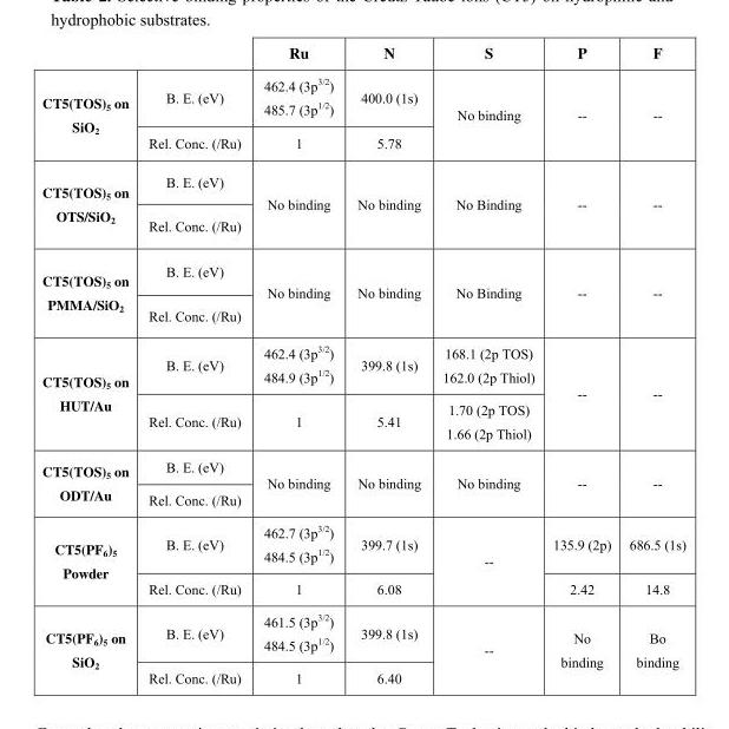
<table><thead><tr><td></td><td></td><td>Ru</td><td>N</td><td>S</td><td>P</td><td>F</td></tr></thead><tbody><tr><td rowspan="2">CT5(TOS)<sub>5</sub> on SiO<sub>2</sub></td><td>B. E. (eV)</td><td>462.4 (3p<sup>3/2</sup>) 485.7 (3p<sup>1/2</sup>)</td><td>400.0 (1s)</td><td rowspan="2">No binding</td><td rowspan="2">--</td><td rowspan="2">--</td></tr><tr><td>Rel. Conc. (/Ru)</td><td>1</td><td>5.78</td></tr><tr><td rowspan="2">CT5(TOS)<sub>5</sub> on OTS/SiO<sub>2</sub></td><td>B. E. (eV)</td><td rowspan="2">No binding</td><td rowspan="2">No binding</td><td rowspan="2">No Binding</td><td rowspan="2">--</td><td rowspan="2">--</td></tr><tr><td>Rel. Conc. (/Ru)</td></tr><tr><td rowspan="2">CT5(TOS)<sub>5</sub> on PMMA/SiO<sub>2</sub></td><td>B. E. (eV)</td><td rowspan="2">No binding</td><td rowspan="2">No binding</td><td rowspan="2">No Binding</td><td rowspan="2">--</td><td rowspan="2">--</td></tr><tr><td>Rel. Conc. (/Ru)</td></tr><tr><td rowspan="2">CT5(TOS)<sub>5</sub> on HUT/Au</td><td>B. E. (eV)</td><td>462.4 (3p<sup>3/2</sup>) 484.9 (3p<sup>1/2</sup>)</td><td>399.8 (1s)</td><td>168.1 (2p TOS) 162.0 (2p Thiol)</td><td rowspan="2">--</td><td rowspan="2">--</td></tr><tr><td>Rel. Conc. (/Ru)</td><td>1</td><td>5.41</td><td>1.70 (2p TOS) 1.66 (2p Thiol)</td></tr><tr><td rowspan="2">CT5(TOS)<sub>5</sub> on ODT/Au</td><td>B. E. (eV)</td><td rowspan="2">No binding</td><td rowspan="2">No binding</td><td rowspan="2">No binding</td><td rowspan="2">--</td><td rowspan="2">--</td></tr><tr><td>Rel. Conc. (/Ru)</td></tr><tr><td rowspan="2">CT5(PF<sub>6</sub>)<sub>5</sub> Powder</td><td>B. E. (eV)</td><td>462.7 (3p<sup>3/2</sup>) 484.5 (3p<sup>1/2</sup>)</td><td>399.7 (1s)</td><td rowspan="2">--</td><td>135.9 (2p)</td><td>686.5 (1s)</td></tr><tr><td>Rel. Conc. (/Ru)</td><td>1</td><td>6.08</td><td>2.42</td><td>14.8</td></tr><tr><td rowspan="2">CT5(PF<sub>6</sub>)<sub>5</sub> on SiO<sub>2</sub></td><td>B. E. (eV)</td><td>461.5 (3p<sup>3/2</sup>) 484.5 (3p<sup>1/2</sup>)</td><td>399.8 (1s)</td><td rowspan="2">--</td><td rowspan="2">No binding</td><td rowspan="2">Bo binding</td></tr><tr><td>Rel. Conc. (/Ru)</td><td>1</td><td>6.40</td></tr></tbody></table>